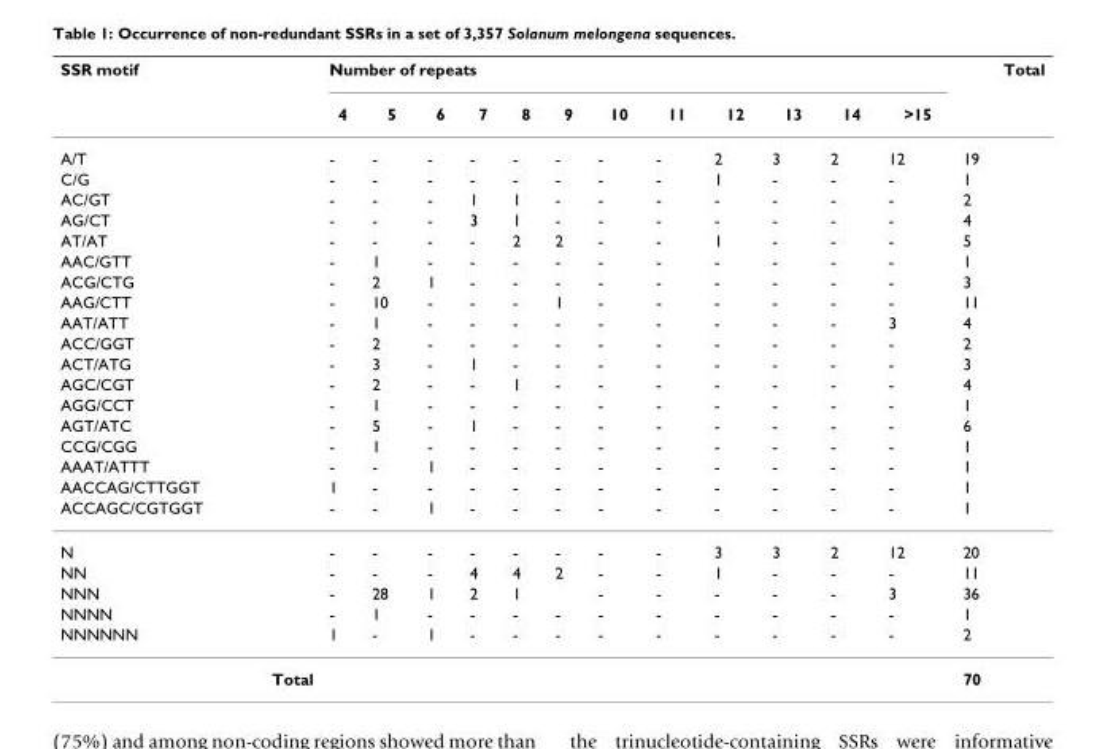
<table><thead><tr><td rowspan="2">SSR motif</td><td colspan="12">Number of repeats</td><td rowspan="2">Total</td></tr><tr><td>4</td><td>5</td><td>6</td><td>7</td><td>8</td><td>9</td><td>10</td><td>11</td><td>12</td><td>13</td><td>14</td><td>&gt;15</td></tr></thead><tbody><tr><td>A/T</td><td>-</td><td>-</td><td>-</td><td>-</td><td>-</td><td>-</td><td>-</td><td>-</td><td>2</td><td>3</td><td>2</td><td>12</td><td>19</td></tr><tr><td>C/G</td><td>-</td><td>-</td><td>-</td><td>-</td><td>-</td><td>-</td><td>-</td><td>-</td><td>1</td><td>-</td><td>-</td><td>-</td><td>1</td></tr><tr><td>AC/GT</td><td>-</td><td>-</td><td>-</td><td>1</td><td>1</td><td>-</td><td>-</td><td>-</td><td>-</td><td>-</td><td>-</td><td>-</td><td>2</td></tr><tr><td>AG/CT</td><td>-</td><td>-</td><td>-</td><td>3</td><td>1</td><td>-</td><td>-</td><td>-</td><td>-</td><td>-</td><td>-</td><td>-</td><td>4</td></tr><tr><td>AT/AT</td><td>-</td><td>-</td><td>-</td><td>-</td><td>2</td><td>2</td><td>-</td><td>-</td><td>1</td><td>-</td><td>-</td><td>-</td><td>5</td></tr><tr><td>AAC/GTT</td><td>-</td><td>1</td><td>-</td><td>-</td><td>-</td><td>-</td><td>-</td><td>-</td><td>-</td><td>-</td><td>-</td><td>-</td><td>1</td></tr><tr><td>ACG/CTG</td><td>-</td><td>2</td><td>1</td><td>-</td><td>-</td><td>-</td><td>-</td><td>-</td><td>-</td><td>-</td><td>-</td><td>-</td><td>3</td></tr><tr><td>AAG/CTT</td><td>-</td><td>10</td><td>-</td><td>-</td><td>-</td><td>1</td><td>-</td><td>-</td><td>-</td><td>-</td><td>-</td><td>-</td><td>11</td></tr><tr><td>AAT/ATT</td><td>-</td><td>1</td><td>-</td><td>-</td><td>-</td><td>-</td><td>-</td><td>-</td><td>-</td><td>-</td><td>-</td><td>3</td><td>4</td></tr><tr><td>ACC/GGT</td><td>-</td><td>2</td><td>-</td><td>-</td><td>-</td><td>-</td><td>-</td><td>-</td><td>-</td><td>-</td><td>-</td><td>-</td><td>2</td></tr><tr><td>ACT/ATG</td><td>-</td><td>3</td><td>-</td><td>1</td><td>-</td><td>-</td><td>-</td><td>-</td><td>-</td><td>-</td><td>-</td><td>-</td><td>3</td></tr><tr><td>AGC/CGT</td><td>-</td><td>2</td><td>-</td><td>-</td><td>1</td><td>-</td><td>-</td><td>-</td><td>-</td><td>-</td><td>-</td><td>-</td><td>4</td></tr><tr><td>AGG/CCT</td><td>-</td><td>1</td><td>-</td><td>-</td><td>-</td><td>-</td><td>-</td><td>-</td><td>-</td><td>-</td><td>-</td><td>-</td><td>1</td></tr><tr><td>AGT/ATC</td><td>-</td><td>5</td><td>-</td><td>1</td><td>-</td><td>-</td><td>-</td><td>-</td><td>-</td><td>-</td><td>-</td><td>-</td><td>6</td></tr><tr><td>CCG/CGG</td><td>-</td><td>1</td><td>-</td><td>-</td><td>-</td><td>-</td><td>-</td><td>-</td><td>-</td><td>-</td><td>-</td><td>-</td><td>1</td></tr><tr><td>AAAT/ATTT</td><td>-</td><td>-</td><td>1</td><td>-</td><td>-</td><td>-</td><td>-</td><td>-</td><td>-</td><td>-</td><td>-</td><td>-</td><td>1</td></tr><tr><td>AACCAG/CTTGGT</td><td>1</td><td>-</td><td>-</td><td>-</td><td>-</td><td>-</td><td>-</td><td>-</td><td>-</td><td>-</td><td>-</td><td>-</td><td>1</td></tr><tr><td>ACCAGC/CGTGGT</td><td>-</td><td>-</td><td>1</td><td>-</td><td>-</td><td>-</td><td>-</td><td>-</td><td>-</td><td>-</td><td>-</td><td>-</td><td>1</td></tr><tr><td>N</td><td>-</td><td>-</td><td>-</td><td>-</td><td>-</td><td>-</td><td>-</td><td>-</td><td>3</td><td>3</td><td>2</td><td>12</td><td>20</td></tr><tr><td>NN</td><td>-</td><td>-</td><td>-</td><td>4</td><td>4</td><td>2</td><td>-</td><td>-</td><td>1</td><td>-</td><td>-</td><td>-</td><td>11</td></tr><tr><td>NNN</td><td>-</td><td>28</td><td>1</td><td>2</td><td>1</td><td></td><td>-</td><td>-</td><td>-</td><td>-</td><td>-</td><td>3</td><td>36</td></tr><tr><td>NNNN</td><td>-</td><td>1</td><td>-</td><td>-</td><td>-</td><td>-</td><td>-</td><td>-</td><td>-</td><td>-</td><td>-</td><td>-</td><td>1</td></tr><tr><td>NNNNNN</td><td>1</td><td>-</td><td>1</td><td>-</td><td>-</td><td>-</td><td>-</td><td>-</td><td>-</td><td>-</td><td>-</td><td>-</td><td>2</td></tr><tr><td>Total</td><td></td><td></td><td></td><td></td><td></td><td></td><td></td><td></td><td></td><td></td><td></td><td></td><td>70</td></tr></tbody></table>